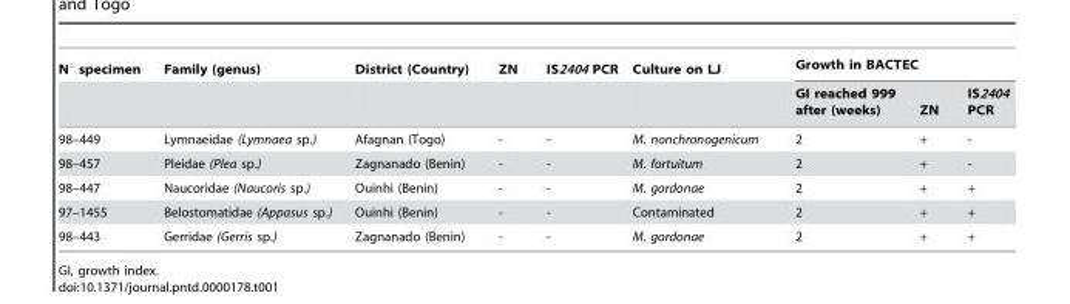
<table><thead><tr><td rowspan="2">N° specimen</td><td rowspan="2">Family (genus)</td><td rowspan="2">District (Country)</td><td rowspan="2">ZN</td><td rowspan="2">IS2404 PCR</td><td rowspan="2">Culture on LJ</td><td colspan="3">Growth in BACTEC</td></tr><tr><td>GI reached 999 after (weeks)</td><td>ZN</td><td>IS2404 PCR</td></tr></thead><tbody><tr><td>98–449</td><td>Lymnaeidae (Lymnaea sp.)</td><td>Afagnan (Togo)</td><td>-</td><td>-</td><td>M. nonchronogenicum</td><td>2</td><td>+</td><td>-</td></tr><tr><td>98–457</td><td>Pleidae (Plea sp.)</td><td>Zagnanado (Benin)</td><td>-</td><td>-</td><td>M. fortuitum</td><td>2</td><td>+</td><td>-</td></tr><tr><td>98–447</td><td>Naucoridae (Naucoris sp.)</td><td>Ouinhi (Benin)</td><td>-</td><td>-</td><td>M. gordonae</td><td>2</td><td>+</td><td>+</td></tr><tr><td>97–1455</td><td>Belostomatidae (Appasus sp.)</td><td>Ouinhi (Benin)</td><td>-</td><td>-</td><td>Contaminated</td><td>2</td><td>+</td><td>+</td></tr><tr><td>98–443</td><td>Gerridae (Gerris sp.)</td><td>Zagnanado (Benin)</td><td>-</td><td>-</td><td>M. gordonae</td><td>2</td><td>+</td><td>+</td></tr></tbody></table>